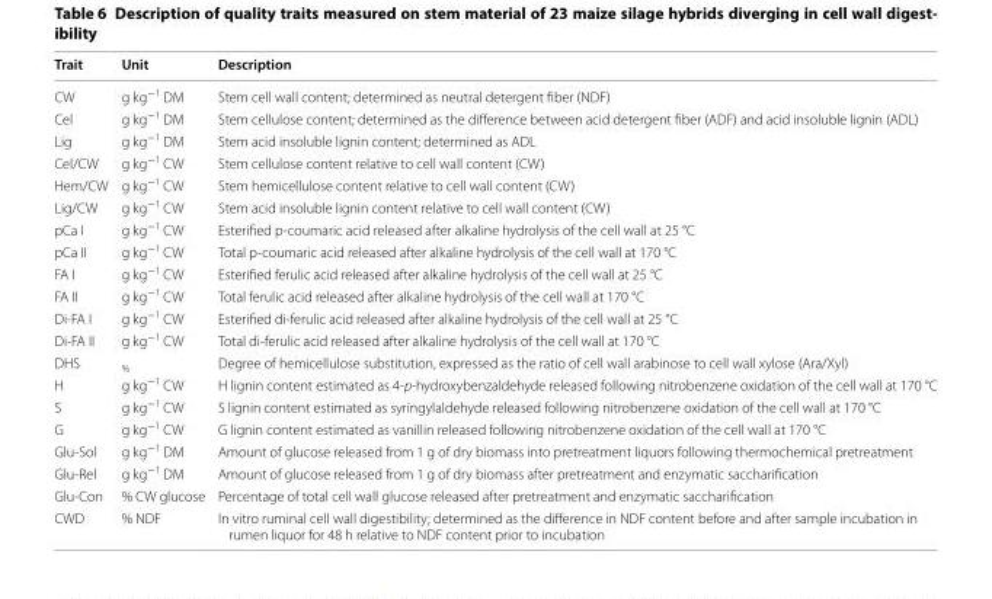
<table><thead><tr><td>Trait</td><td>Unit</td><td>Description</td></tr></thead><tbody><tr><td>CW</td><td>g kg<sup>−1</sup> DM</td><td>Stem cell wall content; determined as neutral detergent fiber (NDF)</td></tr><tr><td>Cel</td><td>g kg<sup>−1</sup> DM</td><td>Stem cellulose content; determined as the difference between acid detergent fiber (ADF) and acid insoluble lignin (ADL)</td></tr><tr><td>Lig</td><td>g kg<sup>−1</sup> DM</td><td>Stem acid insoluble lignin content; determined as ADL</td></tr><tr><td>Cel/CW</td><td>g kg<sup>−1</sup> CW</td><td>Stem cellulose content relative to cell wall content (CW)</td></tr><tr><td>Hem/CW</td><td>g kg<sup>−1</sup> CW</td><td>Stem hemicellulose content relative to cell wall content (CW)</td></tr><tr><td>Lig/CW</td><td>g kg<sup>−1</sup> CW</td><td>Stem acid insoluble lignin content relative to cell wall content (CW)</td></tr><tr><td>pCa I</td><td>g kg<sup>−1</sup> CW</td><td>Esterified p‑coumaric acid released after alkaline hydrolysis of the cell wall at 25 °C</td></tr><tr><td>pCa II</td><td>g kg<sup>−1</sup> CW</td><td>Total p‑coumaric acid released after alkaline hydrolysis of the cell wall at 170 °C</td></tr><tr><td>FA I</td><td>g kg<sup>−1</sup> CW</td><td>Esterified ferulic acid released after alkaline hydrolysis of the cell wall at 25 °C</td></tr><tr><td>FA II</td><td>g kg<sup>−1</sup> CW</td><td>Total ferulic acid released after alkaline hydrolysis of the cell wall at 170 °C</td></tr><tr><td>Di‑FA I</td><td>g kg<sup>−1</sup> CW</td><td>Esterified di‑ferulic acid released after alkaline hydrolysis of the cell wall at 25 °C</td></tr><tr><td>Di‑FA II</td><td>g kg<sup>−1</sup> CW</td><td>Total di‑ferulic acid released after alkaline hydrolysis of the cell wall at 170 °C</td></tr><tr><td>DHS</td><td><sub>%</sub></td><td>Degree of hemicellulose substitution, expressed as the ratio of cell wall arabinose to cell wall xylose (Ara/Xyl)</td></tr><tr><td>H</td><td>g kg<sup>−1</sup> CW</td><td>H lignin content estimated as 4‑p‑hydroxybenzaldehyde released following nitrobenzene oxidation of the cell wall at 170 °C</td></tr><tr><td>S</td><td>g kg<sup>−1</sup> CW</td><td>S lignin content estimated as syringylaldehyde released following nitrobenzene oxidation of the cell wall at 170 °C</td></tr><tr><td>G</td><td>g kg<sup>−1</sup> CW</td><td>G lignin content estimated as vanillin released following nitrobenzene oxidation of the cell wall at 170 °C</td></tr><tr><td>Glu‑Sol</td><td>g kg<sup>−1</sup> DM</td><td>Amount of glucose released from 1 g of dry biomass into pretreatment liquors following thermochemical pretreatment</td></tr><tr><td>Glu‑Rel</td><td>g kg<sup>−1</sup> DM</td><td>Amount of glucose released from 1 g of dry biomass after pretreatment and enzymatic saccharification</td></tr><tr><td>Glu‑Con</td><td>% CW glucose</td><td>Percentage of total cell wall glucose released after pretreatment and enzymatic saccharification</td></tr><tr><td>CWD</td><td>% NDF</td><td>In vitro ruminal cell wall digestibility; determined as the difference in NDF content before and after sample incubation in rumen liquor for 48 h relative to NDF content prior to incubation</td></tr></tbody></table>